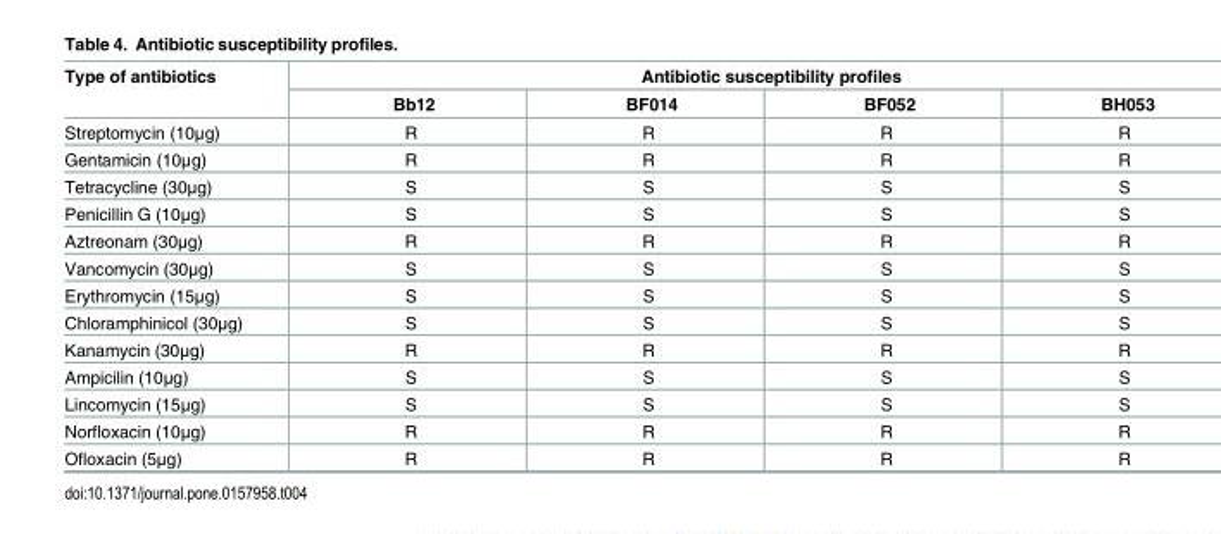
<table><thead><tr><td rowspan="2">Type of antibiotics</td><td colspan="4">Antibiotic susceptibility profiles</td></tr><tr><td>Bb12</td><td>BF014</td><td>BF052</td><td>BH053</td></tr></thead><tbody><tr><td>Streptomycin (10μg)</td><td>R</td><td>R</td><td>R</td><td>R</td></tr><tr><td>Gentamicin (10μg)</td><td>R</td><td>R</td><td>R</td><td>R</td></tr><tr><td>Tetracycline (30μg)</td><td>S</td><td>S</td><td>S</td><td>S</td></tr><tr><td>Penicillin G (10μg)</td><td>S</td><td>S</td><td>S</td><td>S</td></tr><tr><td>Aztreonam (30μg)</td><td>R</td><td>R</td><td>R</td><td>R</td></tr><tr><td>Vancomycin (30μg)</td><td>S</td><td>S</td><td>S</td><td>S</td></tr><tr><td>Erythromycin (15μg)</td><td>S</td><td>S</td><td>S</td><td>S</td></tr><tr><td>Chloramphinicol (30μg)</td><td>S</td><td>S</td><td>S</td><td>S</td></tr><tr><td>Kanamycin (30μg)</td><td>R</td><td>R</td><td>R</td><td>R</td></tr><tr><td>Ampicilin (10μg)</td><td>S</td><td>S</td><td>S</td><td>S</td></tr><tr><td>Lincomycin (15μg)</td><td>S</td><td>S</td><td>S</td><td>S</td></tr><tr><td>Norfloxacin (10μg)</td><td>R</td><td>R</td><td>R</td><td>R</td></tr><tr><td>Ofloxacin (5μg)</td><td>R</td><td>R</td><td>R</td><td>R</td></tr></tbody></table>